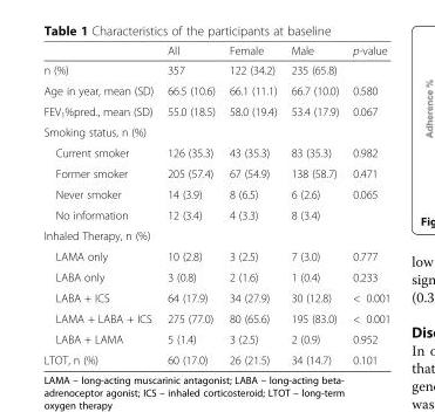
<table><thead><tr><td></td><td>All</td><td>Female</td><td>Male</td><td>p-value</td></tr></thead><tbody><tr><td>n (%)</td><td>357</td><td>122 (34.2)</td><td>235 (65.8)</td><td></td></tr><tr><td>Age in year, mean (SD)</td><td>66.5 (10.6)</td><td>66.1 (11.1)</td><td>66.7 (10.0)</td><td>0.580</td></tr><tr><td>FEV<sub>1</sub>%pred., mean (SD)</td><td>55.0 (18.5)</td><td>58.0 (19.4)</td><td>53.4 (17.9)</td><td>0.067</td></tr><tr><td colspan="5">Smoking status, n (%)</td></tr><tr><td>Current smoker</td><td>126 (35.3)</td><td>43 (35.3)</td><td>83 (35.3)</td><td>0.982</td></tr><tr><td>Former smoker</td><td>205 (57.4)</td><td>67 (54.9)</td><td>138 (58.7)</td><td>0.471</td></tr><tr><td>Never smoker</td><td>14 (3.9)</td><td>8 (6.5)</td><td>6 (2.6)</td><td>0.065</td></tr><tr><td>No information</td><td>12 (3.4)</td><td>4 (3.3)</td><td>8 (3.4)</td><td></td></tr><tr><td colspan="5">Inhaled Therapy, n (%)</td></tr><tr><td>LAMA only</td><td>10 (2.8)</td><td>3 (2.5)</td><td>7 (3.0)</td><td>0.777</td></tr><tr><td>LABA only</td><td>3 (0.8)</td><td>2 (1.6)</td><td>1 (0.4)</td><td>0.233</td></tr><tr><td>LABA + ICS</td><td>64 (17.9)</td><td>34 (27.9)</td><td>30 (12.8)</td><td>&lt; 0.001</td></tr><tr><td>LAMA + LABA + ICS</td><td>275 (77.0)</td><td>80 (65.6)</td><td>195 (83.0)</td><td>&lt; 0.001</td></tr><tr><td>LABA + LAMA</td><td>5 (1.4)</td><td>3 (2.5)</td><td>2 (0.9)</td><td>0.952</td></tr><tr><td>LTOT, n (%)</td><td>60 (17.0)</td><td>26 (21.5)</td><td>34 (14.7)</td><td>0.101</td></tr></tbody></table>